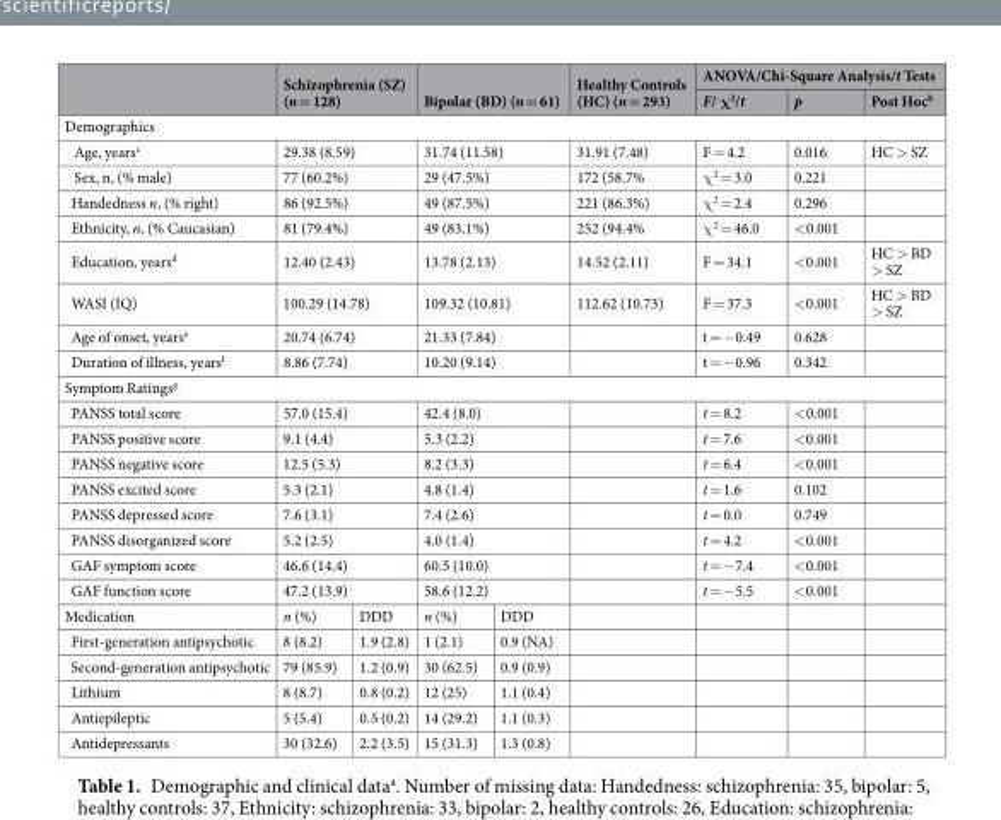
<table><thead><tr><td rowspan="2"></td><td rowspan="2" colspan="2">Schizophrenia (SZ) (n = 128)</td><td rowspan="2" colspan="2">Bipolar (BD) (n = 61)</td><td rowspan="2">Healthy Controls (HC) (n = 293)</td><td colspan="3">ANOVA/Chi-Square Analysis/t Tests</td></tr><tr><td>F/ χ<sup>2</sup>/t</td><td>p</td><td>Post Hoc<sup>b</sup></td></tr></thead><tbody><tr><td colspan="9">Demographics</td></tr><tr><td>Age, years<sup>c</sup></td><td colspan="2">29.38 (8.59)</td><td colspan="2">31.74 (11.58)</td><td>31.91 (7.48)</td><td>F = 4.2</td><td>0.016</td><td>HC &gt; SZ</td></tr><tr><td>Sex, n, (% male)</td><td colspan="2">77 (60.2%)</td><td colspan="2">29 (47.5%)</td><td>172 (58.7%</td><td>χ<sup>2</sup> = 3.0</td><td>0.221</td><td></td></tr><tr><td>Handedness n, (% right)</td><td colspan="2">86 (92.5%)</td><td colspan="2">49 (87.5%)</td><td>221 (86.3%)</td><td>χ<sup>2</sup> = 2.4</td><td>0.296</td><td></td></tr><tr><td>Ethnicity, n, (% Caucasian)</td><td colspan="2">81 (79.4%)</td><td colspan="2">49 (83.1%)</td><td>252 (94.4%</td><td>χ<sup>2</sup> = 46.0</td><td>&lt;0.001</td><td></td></tr><tr><td>Education, years<sup>d</sup></td><td colspan="2">12.40 (2.43)</td><td colspan="2">13.78 (2.13)</td><td>14.52 (2.11)</td><td>F = 34.1</td><td>&lt;0.001</td><td>HC &gt; BD &gt; SZ</td></tr><tr><td>WASI (IQ)</td><td colspan="2">100.29 (14.78)</td><td colspan="2">109.32 (10.81)</td><td>112.62 (10.73)</td><td>F = 37.3</td><td>&lt;0.001</td><td>HC &gt; BD &gt; SZ</td></tr><tr><td>Age of onset, years<sup>e</sup></td><td colspan="2">20.74 (6.74)</td><td colspan="2">21.33 (7.84)</td><td></td><td>t = −0.49</td><td>0.628</td><td></td></tr><tr><td>Duration of illness, years<sup>f</sup></td><td colspan="2">8.86 (7.74)</td><td colspan="2">10.20 (9.14)</td><td></td><td>t = −0.96</td><td>0.342</td><td></td></tr><tr><td colspan="9">Symptom Ratings<sup>g</sup></td></tr><tr><td>PANSS total score</td><td colspan="2">57.0 (15.4)</td><td colspan="2">42.4 (8.0)</td><td></td><td>t = 8.2</td><td>&lt;0.001</td><td></td></tr><tr><td>PANSS positive score</td><td colspan="2">9.1 (4.4)</td><td colspan="2">5.3 (2.2)</td><td></td><td>t = 7.6</td><td>&lt;0.001</td><td></td></tr><tr><td>PANSS negative score</td><td colspan="2">12.5 (5.3)</td><td colspan="2">8.2 (3.3)</td><td></td><td>t = 6.4</td><td>&lt;0.001</td><td></td></tr><tr><td>PANSS excited score</td><td colspan="2">5.3 (2.1)</td><td colspan="2">4.8 (1.4)</td><td></td><td>t = 1.6</td><td>0.102</td><td></td></tr><tr><td>PANSS depressed score</td><td colspan="2">7.6 (3.1)</td><td colspan="2">7.4 (2.6)</td><td></td><td>t = 0.0</td><td>0.749</td><td></td></tr><tr><td>PANSS disorganized score</td><td colspan="2">5.2 (2.5)</td><td colspan="2">4.0 (1.4)</td><td></td><td>t = 4.2</td><td>&lt;0.001</td><td></td></tr><tr><td>GAF symptom score</td><td colspan="2">46.6 (14.4)</td><td colspan="2">60.5 (10.0)</td><td></td><td>t = −7.4</td><td>&lt;0.001</td><td></td></tr><tr><td>GAF function score</td><td colspan="2">47.2 (13.9)</td><td colspan="2">58.6 (12.2)</td><td></td><td>t = −5.5</td><td>&lt;0.001</td><td></td></tr><tr><td>Medication</td><td>n (%)</td><td>DDD</td><td>n (%)</td><td>DDD</td><td></td><td></td><td></td><td></td></tr><tr><td>First-generation antipsychotic</td><td>8 (8.2)</td><td>1.9 (2.8)</td><td>1 (2.1)</td><td>0.9 (NA)</td><td></td><td></td><td></td><td></td></tr><tr><td>Second-generation antipsychotic</td><td>79 (85.9)</td><td>1.2 (0.9)</td><td>30 (62.5)</td><td>0.9 (0.9)</td><td></td><td></td><td></td><td></td></tr><tr><td>Lithium</td><td>8 (8.7)</td><td>0.8 (0.2)</td><td>12 (25)</td><td>1.1 (0.4)</td><td></td><td></td><td></td><td></td></tr><tr><td>Antiepileptic</td><td>5 (5.4)</td><td>0.5 (0.2)</td><td>14 (29.2)</td><td>1.1 (0.3)</td><td></td><td></td><td></td><td></td></tr><tr><td>Antidepressants</td><td>30 (32.6)</td><td>2.2 (3.5)</td><td>15 (31.3)</td><td>1.3 (0.8)</td><td></td><td></td><td></td><td></td></tr></tbody></table>